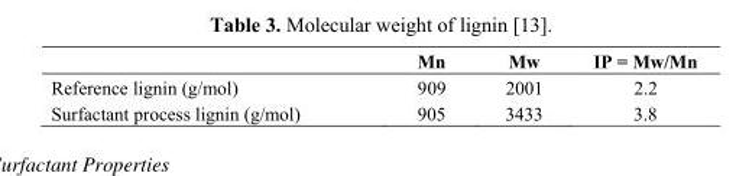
<table><thead><tr><td></td><td>Mn</td><td>Mw</td><td>IP = Mw/Mn</td></tr></thead><tbody><tr><td>Reference lignin (g/mol)</td><td>909</td><td>2001</td><td>2.2</td></tr><tr><td>Surfactant process lignin (g/mol)</td><td>905</td><td>3433</td><td>3.8</td></tr></tbody></table>